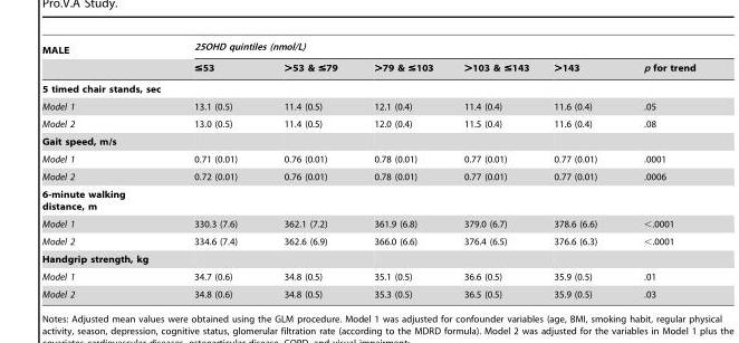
<table><thead><tr><td rowspan="2">MALE</td><td colspan="6">25OHD quintiles (nmol/L)</td></tr><tr><td>≤53</td><td>&gt;53 &amp; ≤79</td><td>&gt;79 &amp; ≤103</td><td>&gt;103 &amp; ≤143</td><td>&gt;143</td><td>p for trend</td></tr></thead><tbody><tr><td colspan="7">5 timed chair stands, sec</td></tr><tr><td>Model 1</td><td>13.1 (0.5)</td><td>11.4 (0.5)</td><td>12.1 (0.4)</td><td>11.4 (0.4)</td><td>11.6 (0.4)</td><td>.05</td></tr><tr><td>Model 2</td><td>13.0 (0.5)</td><td>11.4 (0.5)</td><td>12.0 (0.4)</td><td>11.5 (0.4)</td><td>11.6 (0.4)</td><td>.08</td></tr><tr><td colspan="7">Gait speed, m/s</td></tr><tr><td>Model 1</td><td>0.71 (0.01)</td><td>0.76 (0.01)</td><td>0.78 (0.01)</td><td>0.77 (0.01)</td><td>0.77 (0.01)</td><td>.0001</td></tr><tr><td>Model 2</td><td>0.72 (0.01)</td><td>0.76 (0.01)</td><td>0.78 (0.01)</td><td>0.77 (0.01)</td><td>0.77 (0.01)</td><td>.0006</td></tr><tr><td colspan="7">6-minute walking distance, m</td></tr><tr><td>Model 1</td><td>330.3 (7.6)</td><td>362.1 (7.2)</td><td>361.9 (6.8)</td><td>379.0 (6.7)</td><td>378.6 (6.6)</td><td>&lt;.0001</td></tr><tr><td>Model 2</td><td>334.6 (7.4)</td><td>362.6 (6.9)</td><td>366.0 (6.6)</td><td>376.4 (6.5)</td><td>376.6 (6.3)</td><td>&lt;.0001</td></tr><tr><td colspan="7">Handgrip strength, kg</td></tr><tr><td>Model 1</td><td>34.7 (0.6)</td><td>34.8 (0.5)</td><td>35.1 (0.5)</td><td>36.6 (0.5)</td><td>35.9 (0.5)</td><td>.01</td></tr><tr><td>Model 2</td><td>34.8 (0.6)</td><td>34.8 (0.5)</td><td>35.3 (0.5)</td><td>36.5 (0.5)</td><td>35.9 (0.5)</td><td>.03</td></tr></tbody></table>